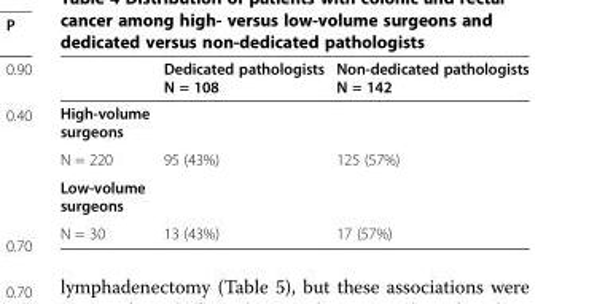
<table><thead><tr><td></td><td>Dedicated pathologists N = 108</td><td>Non-dedicated pathologists N = 142</td></tr></thead><tbody><tr><td colspan="3">High-volume surgeons</td></tr><tr><td>N = 220</td><td>95 (43%)</td><td>125 (57%)</td></tr><tr><td colspan="3">Low-volume surgeons</td></tr><tr><td>N = 30</td><td>13 (43%)</td><td>17 (57%)</td></tr></tbody></table>